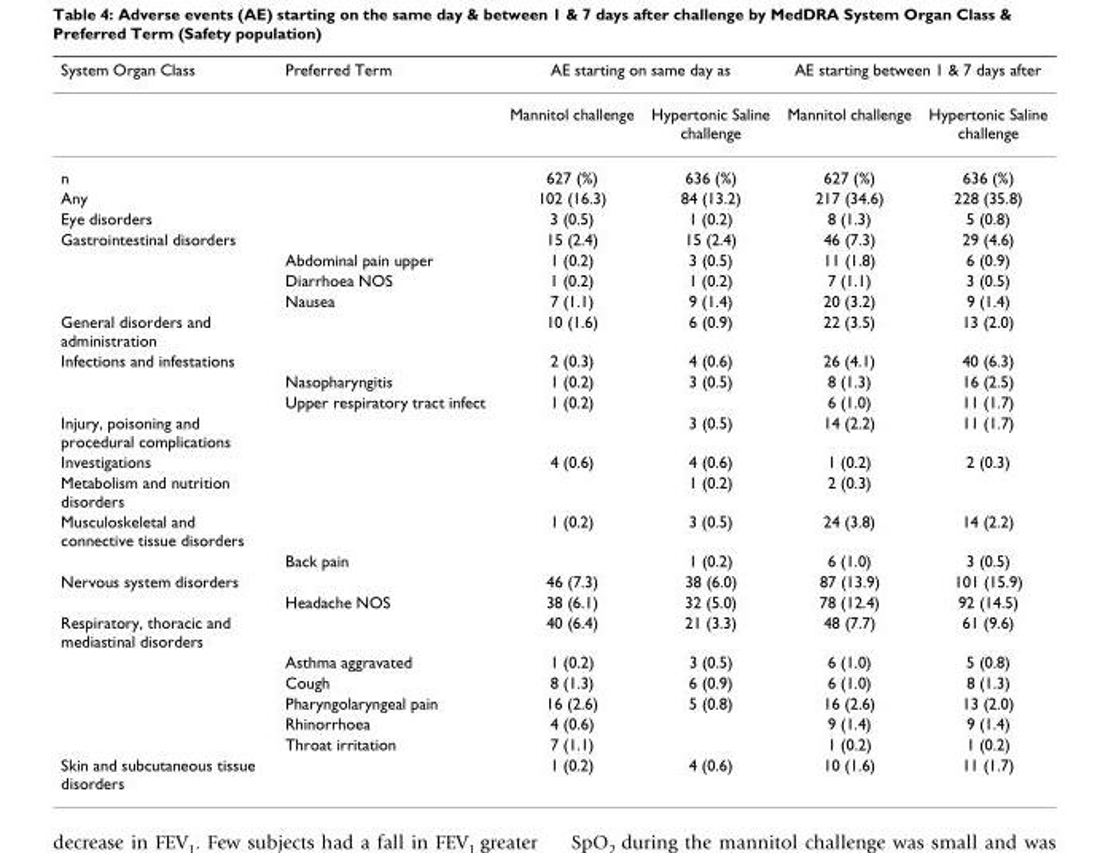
<table><thead><tr><td rowspan="2">System Organ Class</td><td rowspan="2">Preferred Term</td><td colspan="2">AE starting on same day as</td><td colspan="2">AE starting between 1 &amp; 7 days after</td></tr><tr><td>Mannitol challenge</td><td>Hypertonic Saline challenge</td><td>Mannitol challenge</td><td>Hypertonic Saline challenge</td></tr></thead><tbody><tr><td>n</td><td></td><td>627 (%)</td><td>636 (%)</td><td>627 (%)</td><td>636 (%)</td></tr><tr><td>Any</td><td></td><td>102 (16.3)</td><td>84 (13.2)</td><td>217 (34.6)</td><td>228 (35.8)</td></tr><tr><td>Eye disorders</td><td></td><td>3 (0.5)</td><td>1 (0.2)</td><td>8 (1.3)</td><td>5 (0.8)</td></tr><tr><td rowspan="4">Gastrointestinal disorders</td><td></td><td>15 (2.4)</td><td>15 (2.4)</td><td>46 (7.3)</td><td>29 (4.6)</td></tr><tr><td>Abdominal pain upper</td><td>1 (0.2)</td><td>3 (0.5)</td><td>11 (1.8)</td><td>6 (0.9)</td></tr><tr><td>Diarrhoea NOS</td><td>1 (0.2)</td><td>1 (0.2)</td><td>7 (1.1)</td><td>3 (0.5)</td></tr><tr><td>Nausea</td><td>7 (1.1)</td><td>9 (1.4)</td><td>20 (3.2)</td><td>9 (1.4)</td></tr><tr><td>General disorders and administration</td><td></td><td>10 (1.6)</td><td>6 (0.9)</td><td>22 (3.5)</td><td>13 (2.0)</td></tr><tr><td rowspan="3">Infections and infestations</td><td></td><td>2 (0.3)</td><td>4 (0.6)</td><td>26 (4.1)</td><td>40 (6.3)</td></tr><tr><td>Nasopharyngitis</td><td>1 (0.2)</td><td>3 (0.5)</td><td>8 (1.3)</td><td>16 (2.5)</td></tr><tr><td>Upper respiratory tract infect</td><td>1 (0.2)</td><td></td><td>6 (1.0)</td><td>11 (1.7)</td></tr><tr><td>Injury, poisoning and procedural complications</td><td></td><td></td><td>3 (0.5)</td><td>14 (2.2)</td><td>11 (1.7)</td></tr><tr><td>Investigations</td><td></td><td>4 (0.6)</td><td>4 (0.6)</td><td>1 (0.2)</td><td>2 (0.3)</td></tr><tr><td>Metabolism and nutrition disorders</td><td></td><td></td><td>1 (0.2)</td><td>2 (0.3)</td><td></td></tr><tr><td rowspan="2">Musculoskeletal and connective tissue disorders</td><td></td><td>1 (0.2)</td><td>3 (0.5)</td><td>24 (3.8)</td><td>14 (2.2)</td></tr><tr><td>Back pain</td><td></td><td>1 (0.2)</td><td>6 (1.0)</td><td>3 (0.5)</td></tr><tr><td rowspan="2">Nervous system disorders</td><td></td><td>46 (7.3)</td><td>38 (6.0)</td><td>87 (13.9)</td><td>101 (15.9)</td></tr><tr><td>Headache NOS</td><td>38 (6.1)</td><td>32 (5.0)</td><td>78 (12.4)</td><td>92 (14.5)</td></tr><tr><td rowspan="6">Respiratory, thoracic and mediastinal disorders</td><td></td><td>40 (6.4)</td><td>21 (3.3)</td><td>48 (7.7)</td><td>61 (9.6)</td></tr><tr><td>Asthma aggravated</td><td>1 (0.2)</td><td>3 (0.5)</td><td>6 (1.0)</td><td>5 (0.8)</td></tr><tr><td>Cough</td><td>8 (1.3)</td><td>6 (0.9)</td><td>6 (1.0)</td><td>8 (1.3)</td></tr><tr><td>Pharyngolaryngeal pain</td><td>16 (2.6)</td><td>5 (0.8)</td><td>16 (2.6)</td><td>13 (2.0)</td></tr><tr><td>Rhinorrhoea</td><td>4 (0.6)</td><td></td><td>9 (1.4)</td><td>9 (1.4)</td></tr><tr><td>Throat irritation</td><td>7 (1.1)</td><td></td><td>1 (0.2)</td><td>1 (0.2)</td></tr><tr><td>Skin and subcutaneous tissue disorders</td><td></td><td>1 (0.2)</td><td>4 (0.6)</td><td>10 (1.6)</td><td>11 (1.7)</td></tr></tbody></table>